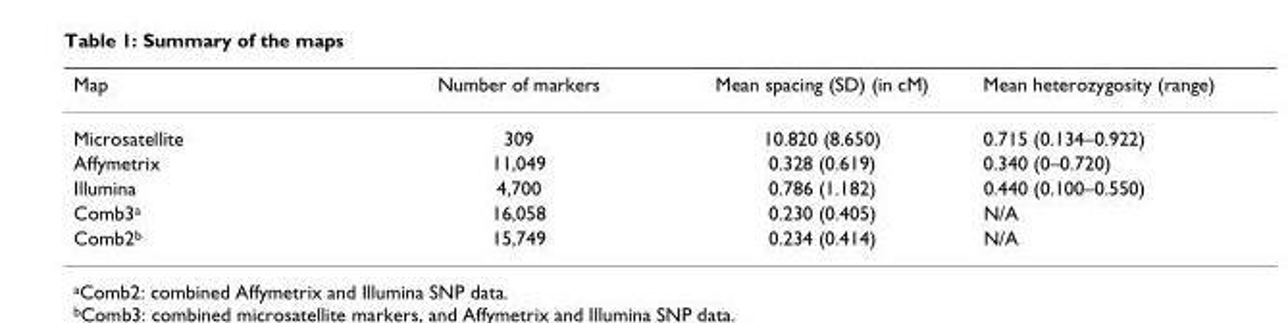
<table><thead><tr><td>Map</td><td>Number of markers</td><td>Mean spacing (SD) (in cM)</td><td>Mean heterozygosity (range)</td></tr></thead><tbody><tr><td>Microsatellite</td><td>309</td><td>10.820 (8.650)</td><td>0.715 (0.134–0.922)</td></tr><tr><td>Affymetrix</td><td>11,049</td><td>0.328 (0.619)</td><td>0.340 (0–0.720)</td></tr><tr><td>Illumina</td><td>4,700</td><td>0.786 (1.182)</td><td>0.440 (0.100–0.550)</td></tr><tr><td>Comb3a</td><td>16,058</td><td>0.230 (0.405)</td><td>N/A</td></tr><tr><td>Comb2b</td><td>15,749</td><td>0.234 (0.414)</td><td>N/A</td></tr></tbody></table>